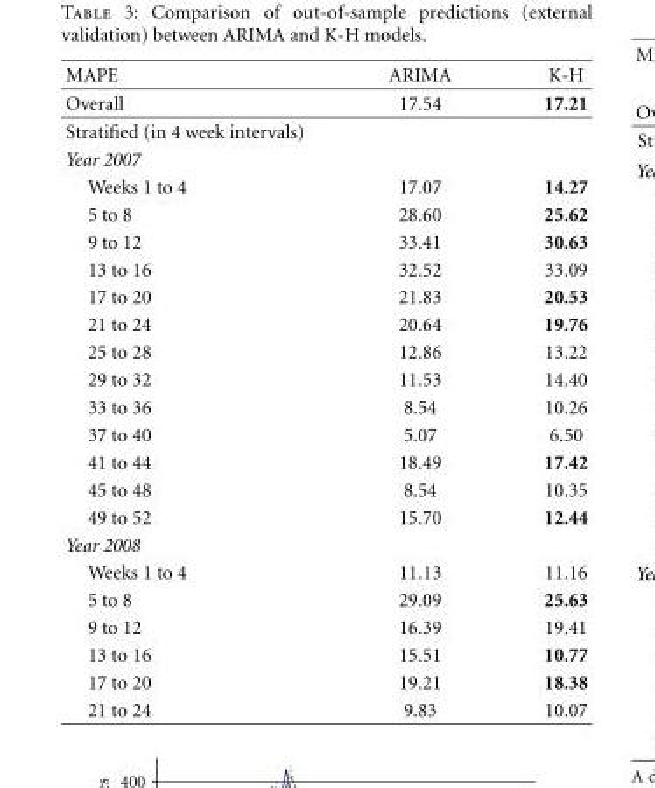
<table><thead><tr><td>MAPE</td><td>ARIMA</td><td>K-H</td></tr></thead><tbody><tr><td>Overall</td><td>17.54</td><td>17.21</td></tr><tr><td colspan="3">Stratified (in 4 week intervals)</td></tr><tr><td colspan="3">Year 2007</td></tr><tr><td>Weeks 1 to 4</td><td>17.07</td><td>14.27</td></tr><tr><td>5 to 8</td><td>28.60</td><td>25.62</td></tr><tr><td>9 to 12</td><td>33.41</td><td>30.63</td></tr><tr><td>13 to 16</td><td>32.52</td><td>33.09</td></tr><tr><td>17 to 20</td><td>21.83</td><td>20.53</td></tr><tr><td>21 to 24</td><td>20.64</td><td>19.76</td></tr><tr><td>25 to 28</td><td>12.86</td><td>13.22</td></tr><tr><td>29 to 32</td><td>11.53</td><td>14.40</td></tr><tr><td>33 to 36</td><td>8.54</td><td>10.26</td></tr><tr><td>37 to 40</td><td>5.07</td><td>6.50</td></tr><tr><td>41 to 44</td><td>18.49</td><td>17.42</td></tr><tr><td>45 to 48</td><td>8.54</td><td>10.35</td></tr><tr><td>49 to 52</td><td>15.70</td><td>12.44</td></tr><tr><td colspan="3">Year 2008</td></tr><tr><td>Weeks 1 to 4</td><td>11.13</td><td>11.16</td></tr><tr><td>5 to 8</td><td>29.09</td><td>25.63</td></tr><tr><td>9 to 12</td><td>16.39</td><td>19.41</td></tr><tr><td>13 to 16</td><td>15.51</td><td>10.77</td></tr><tr><td>17 to 20</td><td>19.21</td><td>18.38</td></tr><tr><td>21 to 24</td><td>9.83</td><td>10.07</td></tr></tbody></table>